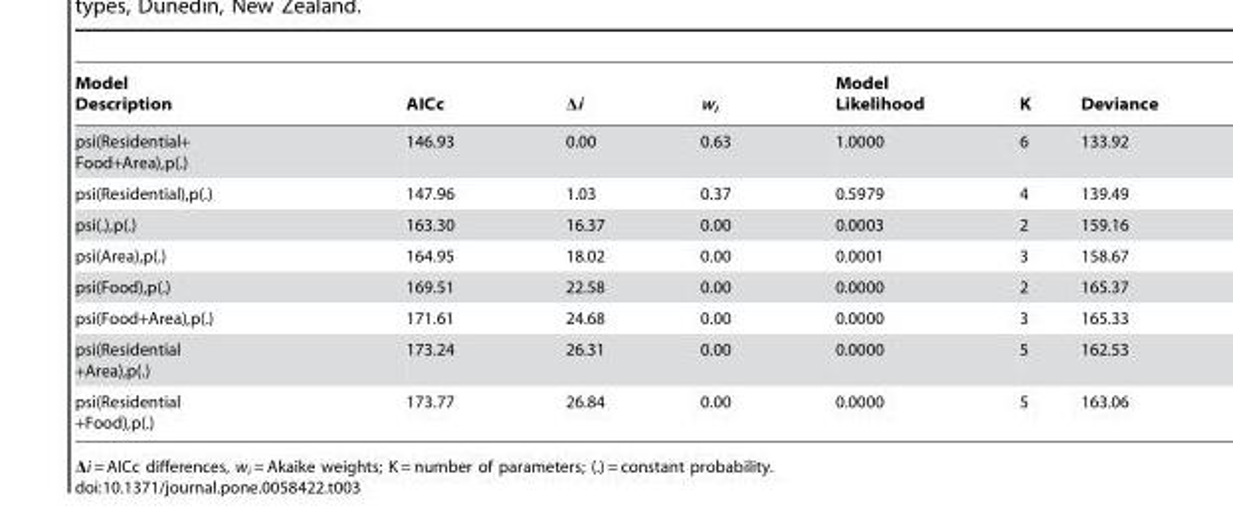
<table><thead><tr><td>Model Description</td><td>AICc</td><td>Δi</td><td>w<sub>i</sub></td><td>Model Likelihood</td><td>K</td><td>Deviance</td></tr></thead><tbody><tr><td>psi(Residential+ Food+Area),p(.)</td><td>146.93</td><td>0.00</td><td>0.63</td><td>1.0000</td><td>6</td><td>133.92</td></tr><tr><td>psi(Residential),p(.)</td><td>147.96</td><td>1.03</td><td>0.37</td><td>0.5979</td><td>4</td><td>139.49</td></tr><tr><td>psi(.),p(.)</td><td>163.30</td><td>16.37</td><td>0.00</td><td>0.0003</td><td>2</td><td>159.16</td></tr><tr><td>psi(Area),p(.)</td><td>164.95</td><td>18.02</td><td>0.00</td><td>0.0001</td><td>3</td><td>158.67</td></tr><tr><td>psi(Food),p(.)</td><td>169.51</td><td>22.58</td><td>0.00</td><td>0.0000</td><td>2</td><td>165.37</td></tr><tr><td>psi(Food+Area),p(.)</td><td>171.61</td><td>24.68</td><td>0.00</td><td>0.0000</td><td>3</td><td>165.33</td></tr><tr><td>psi(Residential +Area),p(.)</td><td>173.24</td><td>26.31</td><td>0.00</td><td>0.0000</td><td>5</td><td>162.53</td></tr><tr><td>psi(Residential +Food),p(.)</td><td>173.77</td><td>26.84</td><td>0.00</td><td>0.0000</td><td>5</td><td>163.06</td></tr></tbody></table>